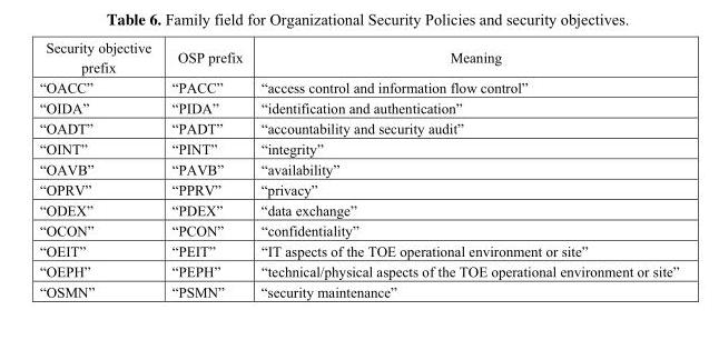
<table><thead><tr><td>Security objective prefix</td><td>OSP prefix</td><td>Meaning</td></tr></thead><tbody><tr><td>“OACC”</td><td>“PACC”</td><td>“access control and information flow control”</td></tr><tr><td>“OIDA”</td><td>“PIDA”</td><td>“identification and authentication”</td></tr><tr><td>“OADT”</td><td>“PADT”</td><td>“accountability and security audit”</td></tr><tr><td>“OINT”</td><td>“PINT”</td><td>“integrity”</td></tr><tr><td>“OAVB”</td><td>“PAVB”</td><td>“availability”</td></tr><tr><td>“OPRV”</td><td>“PPRV”</td><td>“privacy”</td></tr><tr><td>“ODEX”</td><td>“PDEX”</td><td>“data exchange”</td></tr><tr><td>“OCON”</td><td>“PCON”</td><td>“confidentiality”</td></tr><tr><td>“OEIT”</td><td>“PEIT”</td><td>“IT aspects of the TOE operational environment or site”</td></tr><tr><td>“OEPH”</td><td>“PEPH”</td><td>“technical/physical aspects of the TOE operational environment or site”</td></tr><tr><td>“OSMN”</td><td>“PSMN”</td><td>“security maintenance”</td></tr></tbody></table>